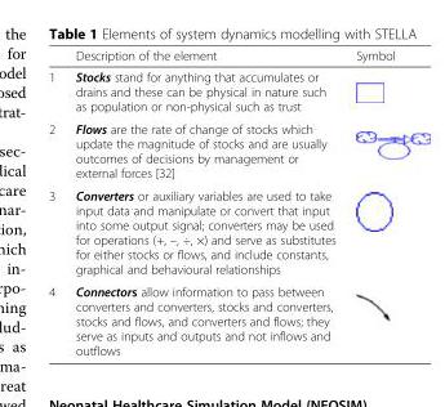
<table><thead><tr><td></td><td>Description of the element</td><td>Symbol</td></tr></thead><tbody><tr><td>1</td><td>Stocks stand for anything that accumulates or drains and these can be physical in nature such as population or non-physical such as trust</td><td></td></tr><tr><td>2</td><td>Flows are the rate of change of stocks which update the magnitude of stocks and are usually outcomes of decisions by management or external forces [32]</td><td></td></tr><tr><td>3</td><td>Converters or auxiliary variables are used to take input data and manipulate or convert that input into some output signal; converters may be used for operations (+, –, ÷, ×) and serve as substitutes for either stocks or flows, and include constants, graphical and behavioural relationships</td><td></td></tr><tr><td>4</td><td>Connectors allow information to pass between converters and converters, stocks and converters, stocks and flows, and converters and flows; they serve as inputs and outputs and not inflows and outflows</td><td></td></tr></tbody></table>